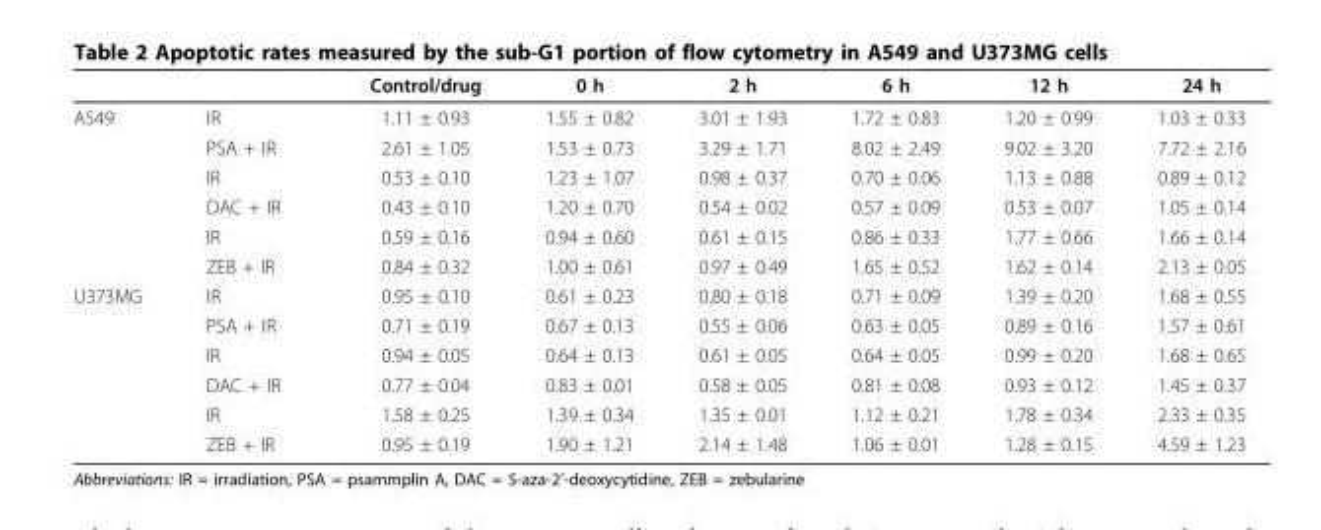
<table><thead><tr><td></td><td></td><td>Control/drug</td><td>0 h</td><td>2 h</td><td>6 h</td><td>12 h</td><td>24 h</td></tr></thead><tbody><tr><td rowspan="6">A549</td><td>IR</td><td>1.11 ± 0.93</td><td>1.55 ± 0.82</td><td>3.01 ± 1.93</td><td>1.72 ± 0.83</td><td>1.20 ± 0.99</td><td>1.03 ± 0.33</td></tr><tr><td>PSA + IR</td><td>2.61 ± 1.05</td><td>1.53 ± 0.73</td><td>3.29 ± 1.71</td><td>8.02 ± 2.49</td><td>9.02 ± 3.20</td><td>7.72 ± 2.16</td></tr><tr><td>IR</td><td>0.53 ± 0.10</td><td>1.23 ± 1.07</td><td>0.98 ± 0.37</td><td>0.70 ± 0.06</td><td>1.13 ± 0.88</td><td>0.89 ± 0.12</td></tr><tr><td>DAC + IR</td><td>0.43 ± 0.10</td><td>1.20 ± 0.70</td><td>0.54 ± 0.02</td><td>0.57 ± 0.09</td><td>0.53 ± 0.07</td><td>1.05 ± 0.14</td></tr><tr><td>IR</td><td>0.59 ± 0.16</td><td>0.94 ± 0.60</td><td>0.61 ± 0.15</td><td>0.86 ± 0.33</td><td>1.77 ± 0.66</td><td>1.66 ± 0.14</td></tr><tr><td>ZEB + IR</td><td>0.84 ± 0.32</td><td>1.00 ± 0.61</td><td>0.97 ± 0.49</td><td>1.65 ± 0.52</td><td>1.62 ± 0.14</td><td>2.13 ± 0.05</td></tr><tr><td rowspan="6">U373MG</td><td>IR</td><td>0.95 ± 0.10</td><td>0.61 ± 0.23</td><td>0.80 ± 0.18</td><td>0.71 ± 0.09</td><td>1.39 ± 0.20</td><td>1.68 ± 0.55</td></tr><tr><td>PSA + IR</td><td>0.71 ± 0.19</td><td>0.67 ± 0.13</td><td>0.55 ± 0.06</td><td>0.63 ± 0.05</td><td>0.89 ± 0.16</td><td>1.57 ± 0.61</td></tr><tr><td>IR</td><td>0.94 ± 0.05</td><td>0.64 ± 0.13</td><td>0.61 ± 0.05</td><td>0.64 ± 0.05</td><td>0.99 ± 0.20</td><td>1.68 ± 0.65</td></tr><tr><td>DAC + IR</td><td>0.77 ± 0.04</td><td>0.83 ± 0.01</td><td>0.58 ± 0.05</td><td>0.81 ± 0.08</td><td>0.93 ± 0.12</td><td>1.45 ± 0.37</td></tr><tr><td>IR</td><td>1.58 ± 0.25</td><td>1.39 ± 0.34</td><td>1.35 ± 0.01</td><td>1.12 ± 0.21</td><td>1.78 ± 0.34</td><td>2.33 ± 0.35</td></tr><tr><td>ZEB + IR</td><td>0.95 ± 0.19</td><td>1.90 ± 1.21</td><td>2.14 ± 1.48</td><td>1.06 ± 0.01</td><td>1.28 ± 0.15</td><td>4.59 ± 1.23</td></tr></tbody></table>